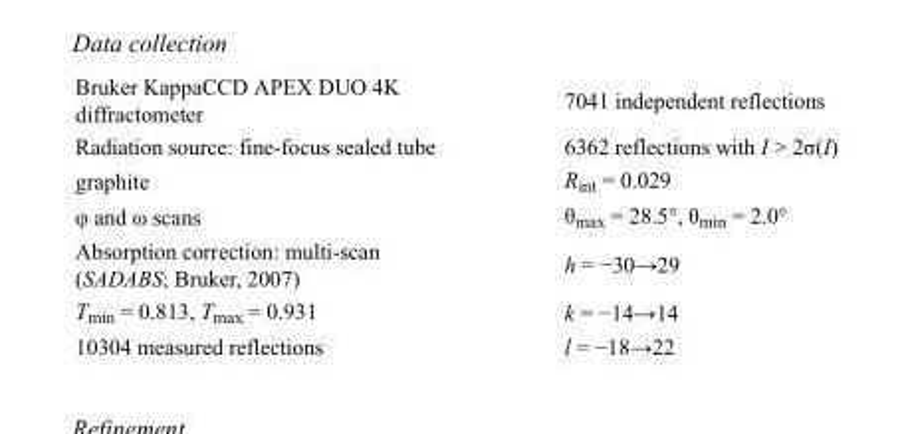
<table><tbody><tr><td>Bruker KappaCCD APEX DUO 4K diffractometer</td><td>7041 independent reflections</td></tr><tr><td>Radiation source: fine-focus sealed tube</td><td>6362 reflections with I &gt; 2σ(I)</td></tr><tr><td>graphite</td><td>R<sub>int</sub> = 0.029</td></tr><tr><td>φ and ω scans</td><td>θ<sub>max</sub> = 28.5°, θ<sub>min</sub> = 2.0°</td></tr><tr><td>Absorption correction: multi-scan (SADABS; Bruker, 2007)</td><td>h = −30→29</td></tr><tr><td>T<sub>min</sub> = 0.813, T<sub>max</sub> = 0.931</td><td>k = −14→14</td></tr><tr><td>10304 measured reflections</td><td>l = −18→22</td></tr></tbody></table>